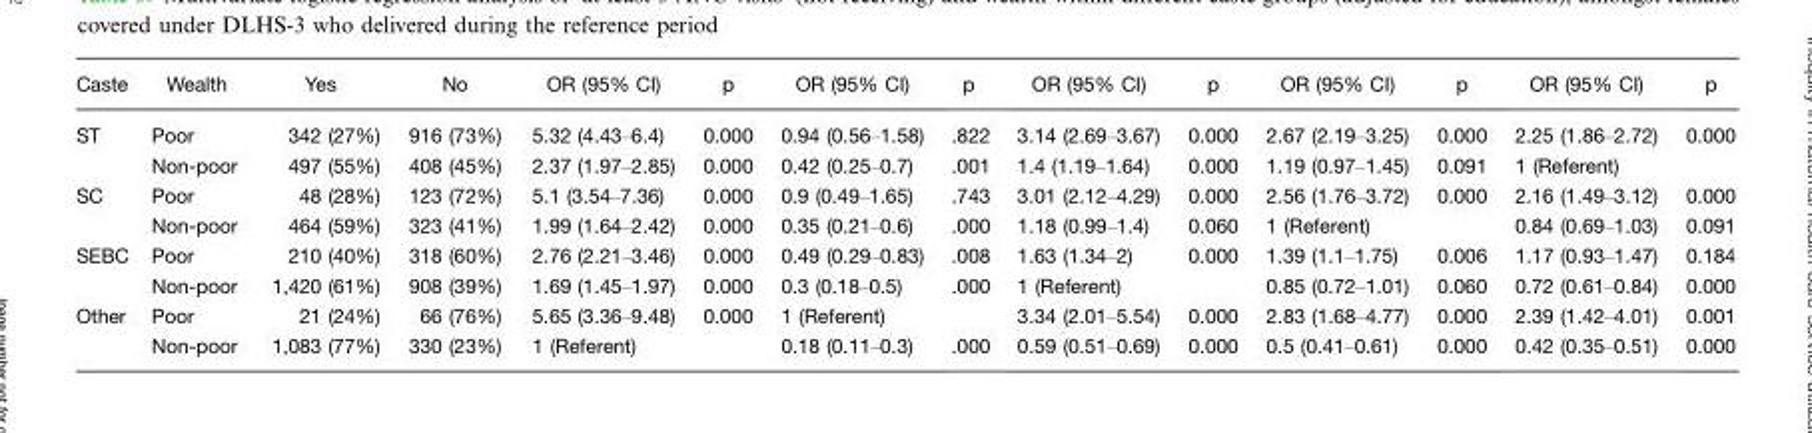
<table><thead><tr><td>Caste</td><td>Wealth</td><td>Yes</td><td>No</td><td>OR (95% CI)</td><td>p</td><td>OR (95% CI)</td><td>p</td><td>OR (95% CI)</td><td>p</td><td>OR (95% CI)</td><td>p</td><td>OR (95% CI)</td><td>p</td></tr></thead><tbody><tr><td rowspan="2">ST</td><td>Poor</td><td>342 (27%)</td><td>916 (73%)</td><td>5.32 (4.43–6.4)</td><td>0.000</td><td>0.94 (0.56–1.58)</td><td>.822</td><td>3.14 (2.69–3.67)</td><td>0.000</td><td>2.67 (2.19–3.25)</td><td>0.000</td><td>2.25 (1.86–2.72)</td><td>0.000</td></tr><tr><td>Non-poor</td><td>497 (55%)</td><td>408 (45%)</td><td>2.37 (1.97–2.85)</td><td>0.000</td><td>0.42 (0.25–0.7)</td><td>.001</td><td>1.4 (1.19–1.64)</td><td>0.000</td><td>1.19 (0.97–1.45)</td><td>0.091</td><td>1 (Referent)</td><td></td></tr><tr><td rowspan="2">SC</td><td>Poor</td><td>48 (28%)</td><td>123 (72%)</td><td>5.1 (3.54–7.36)</td><td>0.000</td><td>0.9 (0.49–1.65)</td><td>.743</td><td>3.01 (2.12–4.29)</td><td>0.000</td><td>2.56 (1.76–3.72)</td><td>0.000</td><td>2.16 (1.49–3.12)</td><td>0.000</td></tr><tr><td>Non-poor</td><td>464 (59%)</td><td>323 (41%)</td><td>1.99 (1.64–2.42)</td><td>0.000</td><td>0.35 (0.21–0.6)</td><td>.000</td><td>1.18 (0.99–1.4)</td><td>0.060</td><td>1 (Referent)</td><td></td><td>0.84 (0.69–1.03)</td><td>0.091</td></tr><tr><td rowspan="2">SEBC</td><td>Poor</td><td>210 (40%)</td><td>318 (60%)</td><td>2.76 (2.21–3.46)</td><td>0.000</td><td>0.49 (0.29–0.83)</td><td>.008</td><td>1.63 (1.34–2)</td><td>0.000</td><td>1.39 (1.1–1.75)</td><td>0.006</td><td>1.17 (0.93–1.47)</td><td>0.184</td></tr><tr><td>Non-poor</td><td>1,420 (61%)</td><td>908 (39%)</td><td>1.69 (1.45–1.97)</td><td>0.000</td><td>0.3 (0.18–0.5)</td><td>.000</td><td>1 (Referent)</td><td></td><td>0.85 (0.72–1.01)</td><td>0.060</td><td>0.72 (0.61–0.84)</td><td>0.000</td></tr><tr><td rowspan="2">Other</td><td>Poor</td><td>21 (24%)</td><td>66 (76%)</td><td>5.65 (3.36–9.48)</td><td>0.000</td><td>1 (Referent)</td><td></td><td>3.34 (2.01–5.54)</td><td>0.000</td><td>2.83 (1.68–4.77)</td><td>0.000</td><td>2.39 (1.42–4.01)</td><td>0.001</td></tr><tr><td>Non-poor</td><td>1,083 (77%)</td><td>330 (23%)</td><td>1 (Referent)</td><td></td><td>0.18 (0.11–0.3)</td><td>.000</td><td>0.59 (0.51–0.69)</td><td>0.000</td><td>0.5 (0.41–0.61)</td><td>0.000</td><td>0.42 (0.35–0.51)</td><td>0.000</td></tr></tbody></table>